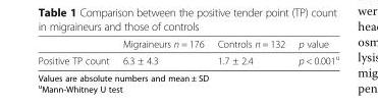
<table><thead><tr><td></td><td>Migraineurs n = 176</td><td>Controls n = 132</td><td>p value</td></tr></thead><tbody><tr><td>Positive TP count</td><td>6.3 ± 4.3</td><td>1.7 ± 2.4</td><td>p &lt; 0.001<sup>u</sup></td></tr></tbody></table>